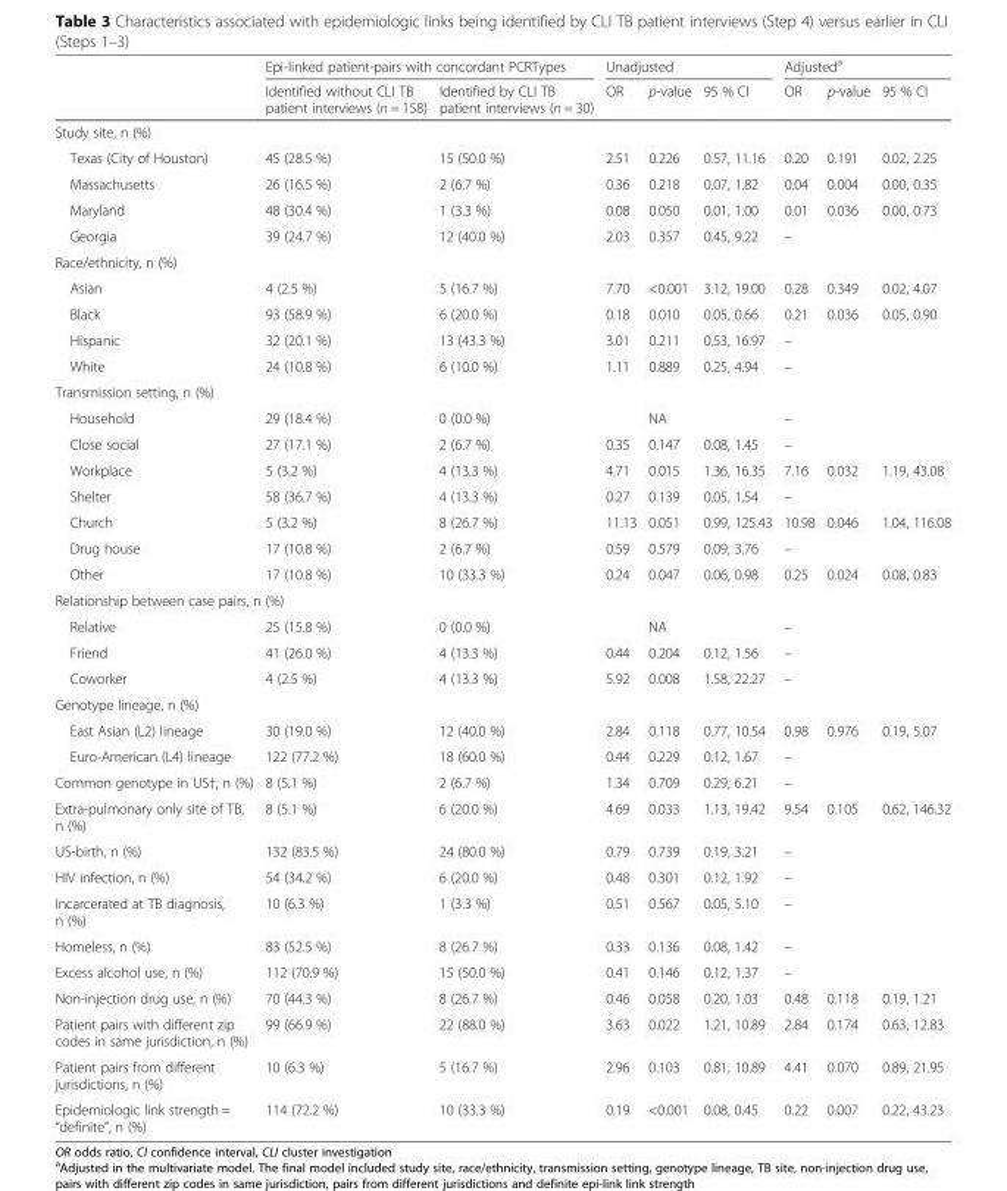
<table><thead><tr><td rowspan="2"></td><td colspan="2">Epi-linked patient-pairs with concordant PCRTypes</td><td colspan="3">Unadjusted</td><td colspan="3">Adjusted<sup>a</sup></td></tr><tr><td>Identified without CLI TB patient interviews (n = 158)</td><td>Identified by CLI TB patient interviews (n = 30)</td><td>OR</td><td>p-value</td><td>95 % CI</td><td>OR</td><td>p-value</td><td>95 % CI</td></tr></thead><tbody><tr><td colspan="9">Study site, n (%)</td></tr><tr><td>Texas (City of Houston)</td><td>45 (28.5 %)</td><td>15 (50.0 %)</td><td>2.51</td><td>0.226</td><td>0.57, 11.16</td><td>0.20</td><td>0.191</td><td>0.02, 2.25</td></tr><tr><td>Massachusetts</td><td>26 (16.5 %)</td><td>2 (6.7 %)</td><td>0.36</td><td>0.218</td><td>0.07, 1.82</td><td>0.04</td><td>0.004</td><td>0.00, 0.35</td></tr><tr><td>Maryland</td><td>48 (30.4 %)</td><td>1 (3.3 %)</td><td>0.08</td><td>0.050</td><td>0.01, 1.00</td><td>0.01</td><td>0.036</td><td>0.00, 0.73</td></tr><tr><td>Georgia</td><td>39 (24.7 %)</td><td>12 (40.0 %)</td><td>2.03</td><td>0.357</td><td>0.45, 9.22</td><td>–</td><td></td><td></td></tr><tr><td colspan="9">Race/ethnicity, n (%)</td></tr><tr><td>Asian</td><td>4 (2.5 %)</td><td>5 (16.7 %)</td><td>7.70</td><td>&lt;0.001</td><td>3.12, 19.00</td><td>0.28</td><td>0.349</td><td>0.02, 4.07</td></tr><tr><td>Black</td><td>93 (58.9 %)</td><td>6 (20.0 %)</td><td>0.18</td><td>0.010</td><td>0.05, 0.66</td><td>0.21</td><td>0.036</td><td>0.05, 0.90</td></tr><tr><td>Hispanic</td><td>32 (20.1 %)</td><td>13 (43.3 %)</td><td>3.01</td><td>0.211</td><td>0.53, 16.97</td><td>–</td><td></td><td></td></tr><tr><td>White</td><td>24 (10.8 %)</td><td>6 (10.0 %)</td><td>1.11</td><td>0.889</td><td>0.25, 4.94</td><td>–</td><td></td><td></td></tr><tr><td colspan="9">Transmission setting, n (%)</td></tr><tr><td>Household</td><td>29 (18.4 %)</td><td>0 (0.0 %)</td><td></td><td>NA</td><td></td><td>–</td><td></td><td></td></tr><tr><td>Close social</td><td>27 (17.1 %)</td><td>2 (6.7 %)</td><td>0.35</td><td>0.147</td><td>0.08, 1.45</td><td>–</td><td></td><td></td></tr><tr><td>Workplace</td><td>5 (3.2 %)</td><td>4 (13.3 %)</td><td>4.71</td><td>0.015</td><td>1.36, 16.35</td><td>7.16</td><td>0.032</td><td>1.19, 43.08</td></tr><tr><td>Shelter</td><td>58 (36.7 %)</td><td>4 (13.3 %)</td><td>0.27</td><td>0.139</td><td>0.05, 1.54</td><td>–</td><td></td><td></td></tr><tr><td>Church</td><td>5 (3.2 %)</td><td>8 (26.7 %)</td><td>11.13</td><td>0.051</td><td>0.99, 125.43</td><td>10.98</td><td>0.046</td><td>1.04, 116.08</td></tr><tr><td>Drug house</td><td>17 (10.8 %)</td><td>2 (6.7 %)</td><td>0.59</td><td>0.579</td><td>0.09, 3.76</td><td>–</td><td></td><td></td></tr><tr><td>Other</td><td>17 (10.8 %)</td><td>10 (33.3 %)</td><td>0.24</td><td>0.047</td><td>0.06, 0.98</td><td>0.25</td><td>0.024</td><td>0.08, 0.83</td></tr><tr><td colspan="9">Relationship between case pairs, n (%)</td></tr><tr><td>Relative</td><td>25 (15.8 %)</td><td>0 (0.0 %)</td><td></td><td>NA</td><td></td><td>–</td><td></td><td></td></tr><tr><td>Friend</td><td>41 (26.0 %)</td><td>4 (13.3 %)</td><td>0.44</td><td>0.204</td><td>0.12, 1.56</td><td>–</td><td></td><td></td></tr><tr><td>Coworker</td><td>4 (2.5 %)</td><td>4 (13.3 %)</td><td>5.92</td><td>0.008</td><td>1.58, 22.27</td><td>–</td><td></td><td></td></tr><tr><td colspan="9">Genotype lineage, n (%)</td></tr><tr><td>East Asian (L2) lineage</td><td>30 (19.0 %)</td><td>12 (40.0 %)</td><td>2.84</td><td>0.118</td><td>0.77, 10.54</td><td>0.98</td><td>0.976</td><td>0.19, 5.07</td></tr><tr><td>Euro-American (L4) lineage</td><td>122 (77.2 %)</td><td>18 (60.0 %)</td><td>0.44</td><td>0.229</td><td>0.12, 1.67</td><td>–</td><td></td><td></td></tr><tr><td>Common genotype in US†, n (%)</td><td>8 (5.1 %)</td><td>2 (6.7 %)</td><td>1.34</td><td>0.709</td><td>0.29, 6.21</td><td>–</td><td></td><td></td></tr><tr><td>Extra-pulmonary only site of TB, n (%)</td><td>8 (5.1 %)</td><td>6 (20.0 %)</td><td>4.69</td><td>0.033</td><td>1.13, 19.42</td><td>9.54</td><td>0.105</td><td>0.62, 146.32</td></tr><tr><td>US-birth, n (%)</td><td>132 (83.5 %)</td><td>24 (80.0 %)</td><td>0.79</td><td>0.739</td><td>0.19, 3.21</td><td>–</td><td></td><td></td></tr><tr><td>HIV infection, n (%)</td><td>54 (34.2 %)</td><td>6 (20.0 %)</td><td>0.48</td><td>0.301</td><td>0.12, 1.92</td><td>–</td><td></td><td></td></tr><tr><td>Incarcerated at TB diagnosis, n (%)</td><td>10 (6.3 %)</td><td>1 (3.3 %)</td><td>0.51</td><td>0.567</td><td>0.05, 5.10</td><td>–</td><td></td><td></td></tr><tr><td>Homeless, n (%)</td><td>83 (52.5 %)</td><td>8 (26.7 %)</td><td>0.33</td><td>0.136</td><td>0.08, 1.42</td><td>–</td><td></td><td></td></tr><tr><td>Excess alcohol use, n (%)</td><td>112 (70.9 %)</td><td>15 (50.0 %)</td><td>0.41</td><td>0.146</td><td>0.12, 1.37</td><td>–</td><td></td><td></td></tr><tr><td>Non-injection drug use, n (%)</td><td>70 (44.3 %)</td><td>8 (26.7 %)</td><td>0.46</td><td>0.058</td><td>0.20, 1.03</td><td>0.48</td><td>0.118</td><td>0.19, 1.21</td></tr><tr><td>Patient pairs with different zip codes in same jurisdiction, n (%)</td><td>99 (66.9 %)</td><td>22 (88.0 %)</td><td>3.63</td><td>0.022</td><td>1.21, 10.89</td><td>2.84</td><td>0.174</td><td>0.63, 12.83</td></tr><tr><td>Patient pairs from different jurisdictions, n (%)</td><td>10 (6.3 %)</td><td>5 (16.7 %)</td><td>2.96</td><td>0.103</td><td>0.81, 10.89</td><td>4.41</td><td>0.070</td><td>0.89, 21.95</td></tr><tr><td>Epidemiologic link strength = “definite”, n (%)</td><td>114 (72.2 %)</td><td>10 (33.3 %)</td><td>0.19</td><td>&lt;0.001</td><td>0.08, 0.45</td><td>0.22</td><td>0.007</td><td>0.22, 43.23</td></tr></tbody></table>